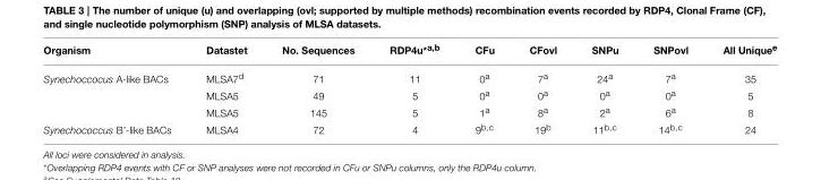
<table><thead><tr><td>Organism</td><td>Datastet</td><td>No. Sequences</td><td>RDP4u<sup>*a,b</sup></td><td>CFu</td><td>CFovl</td><td>SNPu</td><td>SNPovl</td><td>All Unique<sup>e</sup></td></tr></thead><tbody><tr><td rowspan="3">Synechoccocus A-like BACs</td><td>MLSA7<sup>d</sup></td><td>71</td><td>11</td><td>0<sup>a</sup></td><td>7<sup>a</sup></td><td>24<sup>a</sup></td><td>7<sup>a</sup></td><td>35</td></tr><tr><td>MLSA5</td><td>49</td><td>5</td><td>0<sup>a</sup></td><td>0<sup>a</sup></td><td>0<sup>a</sup></td><td>0<sup>a</sup></td><td>5</td></tr><tr><td>MLSA5</td><td>145</td><td>5</td><td>1<sup>a</sup></td><td>8<sup>a</sup></td><td>2<sup>a</sup></td><td>6<sup>a</sup></td><td>8</td></tr><tr><td>Synechococcus B’-like BACs</td><td>MLSA4</td><td>72</td><td>4</td><td>9<sup>b,c</sup></td><td>19<sup>b</sup></td><td>11<sup>b,c</sup></td><td>14<sup>b,c</sup></td><td>24</td></tr></tbody></table>